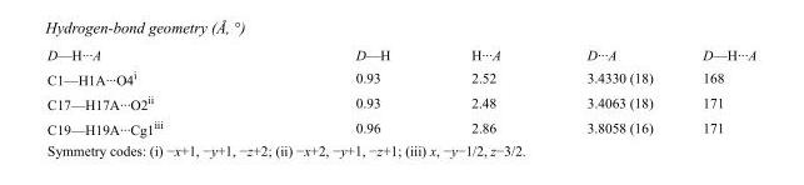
<table><tbody><tr><td>D—H···A</td><td>D—H</td><td>H···A</td><td>D···A</td><td>D—H···A</td></tr><tr><td>C1—H1A···O4<sup>i</sup></td><td>0.93</td><td>2.52</td><td>3.4330 (18)</td><td>168</td></tr><tr><td>C17—H17A···O2<sup>ii</sup></td><td>0.93</td><td>2.48</td><td>3.4063 (18)</td><td>171</td></tr><tr><td>C19—H19A···Cg1<sup>iii</sup></td><td>0.96</td><td>2.86</td><td>3.8058 (16)</td><td>171</td></tr></tbody></table>